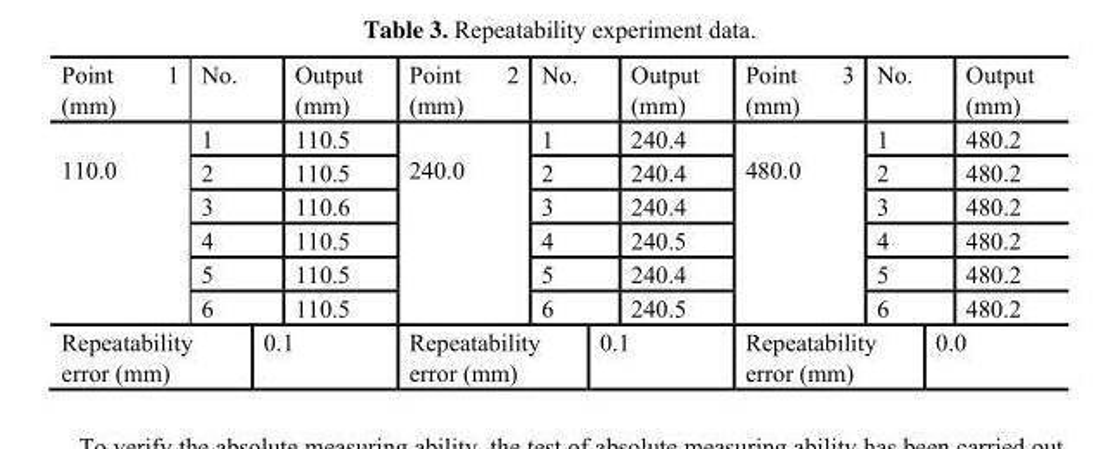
<table><thead><tr><td>Point 1 (mm)</td><td>No.</td><td>Output (mm)</td><td>Point 2 (mm)</td><td>No.</td><td>Output (mm)</td><td>Point 3 (mm)</td><td>No.</td><td>Output (mm)</td></tr></thead><tbody><tr><td rowspan="6">110.0</td><td>1</td><td>110.5</td><td rowspan="6">240.0</td><td>1</td><td>240.4</td><td rowspan="6">480.0</td><td>1</td><td>480.2</td></tr><tr><td>2</td><td>110.5</td><td>2</td><td>240.4</td><td>2</td><td>480.2</td></tr><tr><td>3</td><td>110.6</td><td>3</td><td>240.4</td><td>3</td><td>480.2</td></tr><tr><td>4</td><td>110.5</td><td>4</td><td>240.5</td><td>4</td><td>480.2</td></tr><tr><td>5</td><td>110.5</td><td>5</td><td>240.4</td><td>5</td><td>480.2</td></tr><tr><td>6</td><td>110.5</td><td>6</td><td>240.5</td><td>6</td><td>480.2</td></tr><tr><td colspan="2">Repeatability error (mm)</td><td>0.1</td><td colspan="2">Repeatability error (mm)</td><td>0.1</td><td colspan="2">Repeatability error (mm)</td><td>0.0</td></tr></tbody></table>